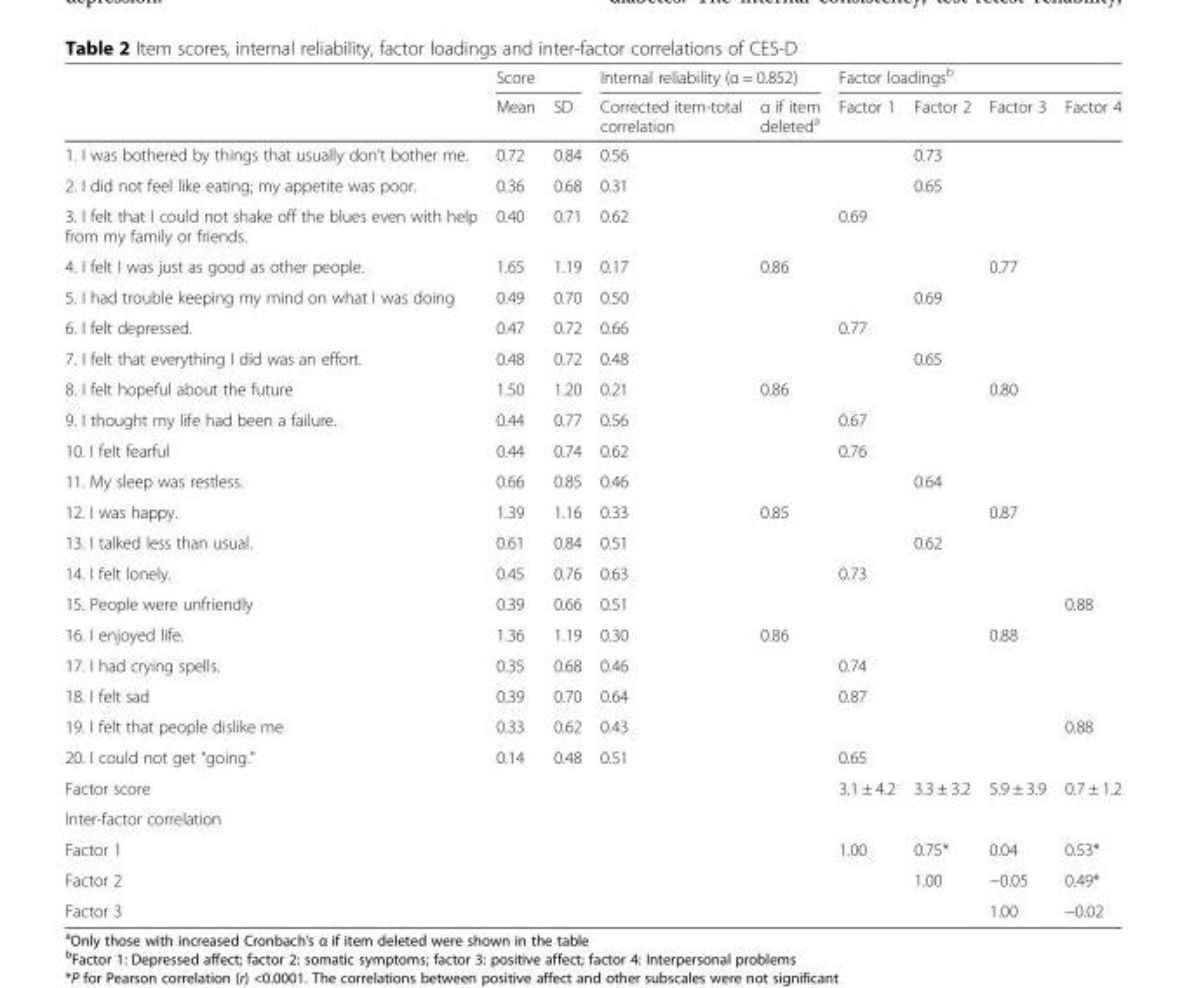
<table><thead><tr><td rowspan="2"></td><td colspan="2">Score</td><td colspan="2">Internal reliability (α = 0.852)</td><td colspan="4">Factor loadings<sup>b</sup></td></tr><tr><td>Mean</td><td>SD</td><td>Corrected item-total correlation</td><td>α if item deleted<sup>a</sup></td><td>Factor 1</td><td>Factor 2</td><td>Factor 3</td><td>Factor 4</td></tr></thead><tbody><tr><td>1. I was bothered by things that usually don’t bother me.</td><td>0.72</td><td>0.84</td><td>0.56</td><td></td><td></td><td>0.73</td><td></td><td></td></tr><tr><td>2. I did not feel like eating; my appetite was poor.</td><td>0.36</td><td>0.68</td><td>0.31</td><td></td><td></td><td>0.65</td><td></td><td></td></tr><tr><td>3. I felt that I could not shake off the blues even with help from my family or friends.</td><td>0.40</td><td>0.71</td><td>0.62</td><td></td><td>0.69</td><td></td><td></td><td></td></tr><tr><td>4. I felt I was just as good as other people.</td><td>1.65</td><td>1.19</td><td>0.17</td><td>0.86</td><td></td><td></td><td>0.77</td><td></td></tr><tr><td>5. I had trouble keeping my mind on what I was doing</td><td>0.49</td><td>0.70</td><td>0.50</td><td></td><td></td><td>0.69</td><td></td><td></td></tr><tr><td>6. I felt depressed.</td><td>0.47</td><td>0.72</td><td>0.66</td><td></td><td>0.77</td><td></td><td></td><td></td></tr><tr><td>7. I felt that everything I did was an effort.</td><td>0.48</td><td>0.72</td><td>0.48</td><td></td><td></td><td>0.65</td><td></td><td></td></tr><tr><td>8. I felt hopeful about the future</td><td>1.50</td><td>1.20</td><td>0.21</td><td>0.86</td><td></td><td></td><td>0.80</td><td></td></tr><tr><td>9. I thought my life had been a failure.</td><td>0.44</td><td>0.77</td><td>0.56</td><td></td><td>0.67</td><td></td><td></td><td></td></tr><tr><td>10. I felt fearful</td><td>0.44</td><td>0.74</td><td>0.62</td><td></td><td>0.76</td><td></td><td></td><td></td></tr><tr><td>11. My sleep was restless.</td><td>0.66</td><td>0.85</td><td>0.46</td><td></td><td></td><td>0.64</td><td></td><td></td></tr><tr><td>12. I was happy.</td><td>1.39</td><td>1.16</td><td>0.33</td><td>0.85</td><td></td><td></td><td>0.87</td><td></td></tr><tr><td>13. I talked less than usual.</td><td>0.61</td><td>0.84</td><td>0.51</td><td></td><td></td><td>0.62</td><td></td><td></td></tr><tr><td>14. I felt lonely.</td><td>0.45</td><td>0.76</td><td>0.63</td><td></td><td>0.73</td><td></td><td></td><td></td></tr><tr><td>15. People were unfriendly</td><td>0.39</td><td>0.66</td><td>0.51</td><td></td><td></td><td></td><td></td><td>0.88</td></tr><tr><td>16. I enjoyed life.</td><td>1.36</td><td>1.19</td><td>0.30</td><td>0.86</td><td></td><td></td><td>0.88</td><td></td></tr><tr><td>17. I had crying spells.</td><td>0.35</td><td>0.68</td><td>0.46</td><td></td><td>0.74</td><td></td><td></td><td></td></tr><tr><td>18. I felt sad</td><td>0.39</td><td>0.70</td><td>0.64</td><td></td><td>0.87</td><td></td><td></td><td></td></tr><tr><td>19. I felt that people dislike me</td><td>0.33</td><td>0.62</td><td>0.43</td><td></td><td></td><td></td><td></td><td>0.88</td></tr><tr><td>20. I could not get “going.”</td><td>0.14</td><td>0.48</td><td>0.51</td><td></td><td>0.65</td><td></td><td></td><td></td></tr><tr><td>Factor score</td><td></td><td></td><td></td><td></td><td>3.1 ± 4.2</td><td>3.3 ± 3.2</td><td>5.9 ± 3.9</td><td>0.7 ± 1.2</td></tr><tr><td colspan="9">Inter-factor correlation</td></tr><tr><td>Factor 1</td><td></td><td></td><td></td><td></td><td>1.00</td><td>0.75*</td><td>0.04</td><td>0.53*</td></tr><tr><td>Factor 2</td><td></td><td></td><td></td><td></td><td></td><td>1.00</td><td>−0.05</td><td>0.49*</td></tr><tr><td>Factor 3</td><td></td><td></td><td></td><td></td><td></td><td></td><td>1.00</td><td>−0.02</td></tr></tbody></table>